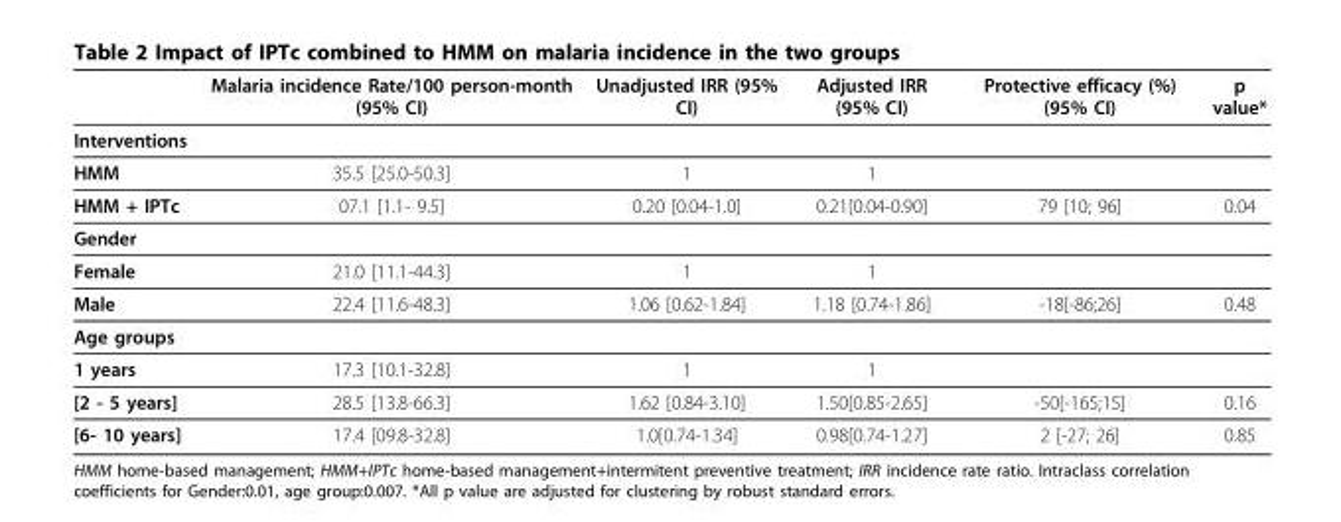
<table><thead><tr><td></td><td>Malaria incidence Rate/100 person-month (95% CI)</td><td>Unadjusted IRR (95% CI)</td><td>Adjusted IRR (95% CI)</td><td>Protective efficacy (%) (95% CI)</td><td>p value*</td></tr></thead><tbody><tr><td colspan="6">Interventions</td></tr><tr><td>HMM</td><td>35.5 [25.0-50.3]</td><td>1</td><td>1</td><td></td><td></td></tr><tr><td>HMM + IPTc</td><td>07.1 [1.1- 9.5]</td><td>0.20 [0.04-1.0]</td><td>0.21[0.04-0.90]</td><td>79 [10; 96]</td><td>0.04</td></tr><tr><td colspan="6">Gender</td></tr><tr><td>Female</td><td>21.0 [11.1-44.3]</td><td>1</td><td>1</td><td></td><td></td></tr><tr><td>Male</td><td>22.4 [11.6-48.3]</td><td>1.06 [0.62-1.84]</td><td>1.18 [0.74-1.86]</td><td>-18[-86;26]</td><td>0.48</td></tr><tr><td colspan="6">Age groups</td></tr><tr><td>1 years</td><td>17.3 [10.1-32.8]</td><td>1</td><td>1</td><td></td><td></td></tr><tr><td>[2 - 5 years]</td><td>28.5 [13.8-66.3]</td><td>1.62 [0.84-3.10]</td><td>1.50[0.85-2.65]</td><td>-50[-165;15]</td><td>0.16</td></tr><tr><td>[6- 10 years]</td><td>17.4 [09.8-32.8]</td><td>1.0[0.74-1.34]</td><td>0.98[0.74-1.27]</td><td>2 [-27; 26]</td><td>0.85</td></tr></tbody></table>